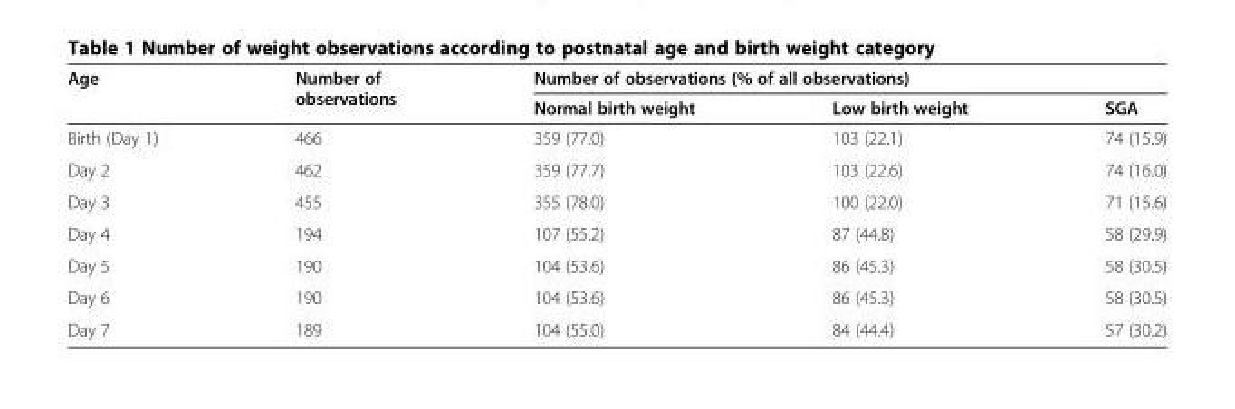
<table><thead><tr><td rowspan="2">Age</td><td rowspan="2">Number of observations</td><td colspan="3">Number of observations (% of all observations)</td></tr><tr><td>Normal birth weight</td><td>Low birth weight</td><td>SGA</td></tr></thead><tbody><tr><td>Birth (Day 1)</td><td>466</td><td>359 (77.0)</td><td>103 (22.1)</td><td>74 (15.9)</td></tr><tr><td>Day 2</td><td>462</td><td>359 (77.7)</td><td>103 (22.6)</td><td>74 (16.0)</td></tr><tr><td>Day 3</td><td>455</td><td>355 (78.0)</td><td>100 (22.0)</td><td>71 (15.6)</td></tr><tr><td>Day 4</td><td>194</td><td>107 (55.2)</td><td>87 (44.8)</td><td>58 (29.9)</td></tr><tr><td>Day 5</td><td>190</td><td>104 (53.6)</td><td>86 (45.3)</td><td>58 (30.5)</td></tr><tr><td>Day 6</td><td>190</td><td>104 (53.6)</td><td>86 (45.3)</td><td>58 (30.5)</td></tr><tr><td>Day 7</td><td>189</td><td>104 (55.0)</td><td>84 (44.4)</td><td>57 (30.2)</td></tr></tbody></table>